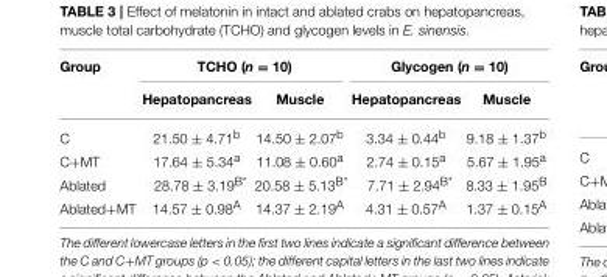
<table><thead><tr><td rowspan="2">Group</td><td colspan="2">TCHO (n = 10)</td><td colspan="2">Glycogen (n = 10)</td></tr><tr><td>Hepatopancreas</td><td>Muscle</td><td>Hepatopancreas</td><td>Muscle</td></tr></thead><tbody><tr><td>C</td><td>21.50 ± 4.71<sup>b</sup></td><td>14.50 ± 2.07<sup>b</sup></td><td>3.34 ± 0.44<sup>b</sup></td><td>9.18 ± 1.37<sup>b</sup></td></tr><tr><td>C+MT</td><td>17.64 ± 5.34<sup>a</sup></td><td>11.08 ± 0.60<sup>a</sup></td><td>2.74 ± 0.15<sup>a</sup></td><td>5.67 ± 1.95<sup>a</sup></td></tr><tr><td>Ablated</td><td>28.78 ± 3.19<sup>B*</sup></td><td>20.58 ± 5.13<sup>B*</sup></td><td>7.71 ± 2.94<sup>B*</sup></td><td>8.33 ± 1.95<sup>B</sup></td></tr><tr><td>Ablated+MT</td><td>14.57 ± 0.98<sup>A</sup></td><td>14.37 ± 2.19<sup>A</sup></td><td>4.31 ± 0.57<sup>A</sup></td><td>1.37 ± 0.15<sup>A</sup></td></tr></tbody></table>